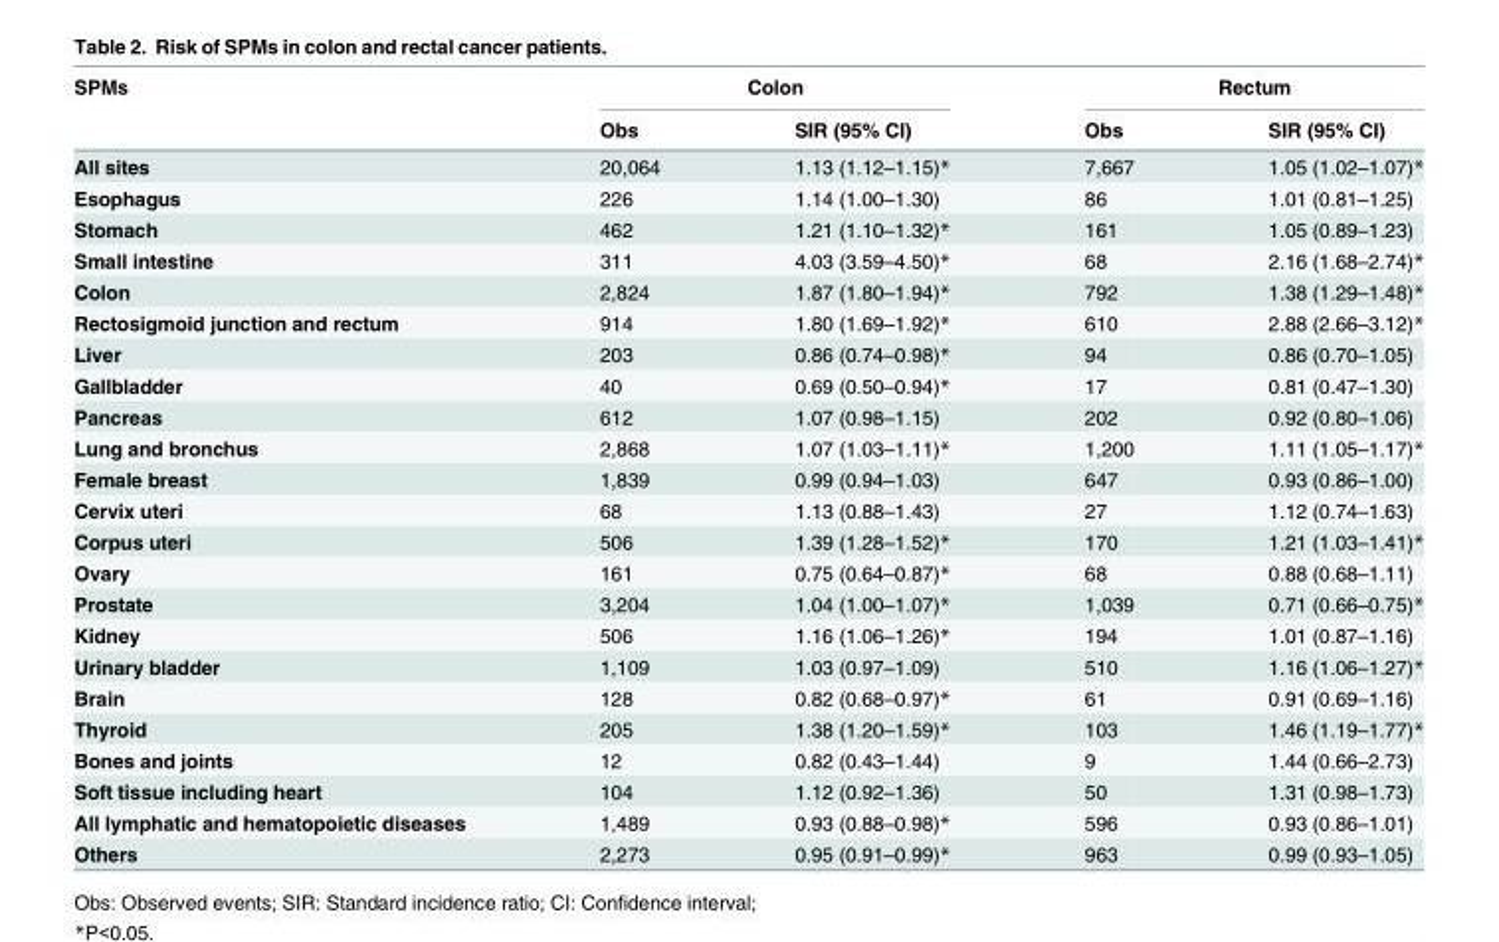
<table><thead><tr><td rowspan="2">SPMs</td><td colspan="2">Colon</td><td colspan="2">Rectum</td></tr><tr><td>Obs</td><td>SIR (95% CI)</td><td>Obs</td><td>SIR (95% CI)</td></tr></thead><tbody><tr><td>All sites</td><td>20,064</td><td>1.13 (1.12–1.15)*</td><td>7,667</td><td>1.05 (1.02–1.07)*</td></tr><tr><td>Esophagus</td><td>226</td><td>1.14 (1.00–1.30)</td><td>86</td><td>1.01 (0.81–1.25)</td></tr><tr><td>Stomach</td><td>462</td><td>1.21 (1.10–1.32)*</td><td>161</td><td>1.05 (0.89–1.23)</td></tr><tr><td>Small intestine</td><td>311</td><td>4.03 (3.59–4.50)*</td><td>68</td><td>2.16 (1.68–2.74)*</td></tr><tr><td>Colon</td><td>2,824</td><td>1.87 (1.80–1.94)*</td><td>792</td><td>1.38 (1.29–1.48)*</td></tr><tr><td>Rectosigmoid junction and rectum</td><td>914</td><td>1.80 (1.69–1.92)*</td><td>610</td><td>2.88 (2.66–3.12)*</td></tr><tr><td>Liver</td><td>203</td><td>0.86 (0.74–0.98)*</td><td>94</td><td>0.86 (0.70–1.05)</td></tr><tr><td>Gallbladder</td><td>40</td><td>0.69 (0.50–0.94)*</td><td>17</td><td>0.81 (0.47–1.30)</td></tr><tr><td>Pancreas</td><td>612</td><td>1.07 (0.98–1.15)</td><td>202</td><td>0.92 (0.80–1.06)</td></tr><tr><td>Lung and bronchus</td><td>2,868</td><td>1.07 (1.03–1.11)*</td><td>1,200</td><td>1.11 (1.05–1.17)*</td></tr><tr><td>Female breast</td><td>1,839</td><td>0.99 (0.94–1.03)</td><td>647</td><td>0.93 (0.86–1.00)</td></tr><tr><td>Cervix uteri</td><td>68</td><td>1.13 (0.88–1.43)</td><td>27</td><td>1.12 (0.74–1.63)</td></tr><tr><td>Corpus uteri</td><td>506</td><td>1.39 (1.28–1.52)*</td><td>170</td><td>1.21 (1.03–1.41)*</td></tr><tr><td>Ovary</td><td>161</td><td>0.75 (0.64–0.87)*</td><td>68</td><td>0.88 (0.68–1.11)</td></tr><tr><td>Prostate</td><td>3,204</td><td>1.04 (1.00–1.07)*</td><td>1,039</td><td>0.71 (0.66–0.75)*</td></tr><tr><td>Kidney</td><td>506</td><td>1.16 (1.06–1.26)*</td><td>194</td><td>1.01 (0.87–1.16)</td></tr><tr><td>Urinary bladder</td><td>1,109</td><td>1.03 (0.97–1.09)</td><td>510</td><td>1.16 (1.06–1.27)*</td></tr><tr><td>Brain</td><td>128</td><td>0.82 (0.68–0.97)*</td><td>61</td><td>0.91 (0.69–1.16)</td></tr><tr><td>Thyroid</td><td>205</td><td>1.38 (1.20–1.59)*</td><td>103</td><td>1.46 (1.19–1.77)*</td></tr><tr><td>Bones and joints</td><td>12</td><td>0.82 (0.43–1.44)</td><td>9</td><td>1.44 (0.66–2.73)</td></tr><tr><td>Soft tissue including heart</td><td>104</td><td>1.12 (0.92–1.36)</td><td>50</td><td>1.31 (0.98–1.73)</td></tr><tr><td>All lymphatic and hematopoietic diseases</td><td>1,489</td><td>0.93 (0.88–0.98)*</td><td>596</td><td>0.93 (0.86–1.01)</td></tr><tr><td>Others</td><td>2,273</td><td>0.95 (0.91–0.99)*</td><td>963</td><td>0.99 (0.93–1.05)</td></tr></tbody></table>